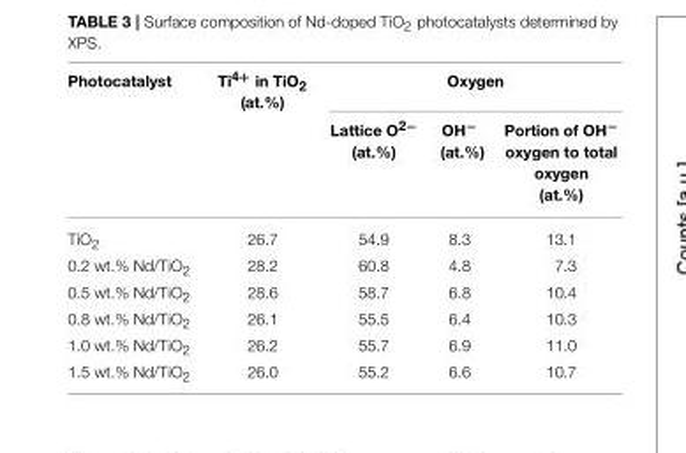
<table><thead><tr><td rowspan="2">Photocatalyst</td><td rowspan="2">Ti<sup>4+</sup> in TiO<sub>2</sub> (at.%)</td><td colspan="3">Oxygen</td></tr><tr><td>Lattice O<sup>2−</sup> (at.%)</td><td>OH<sup>−</sup> (at.%)</td><td>Portion of OH<sup>−</sup> oxygen to total oxygen (at.%)</td></tr></thead><tbody><tr><td>TiO<sub>2</sub></td><td>26.7</td><td>54.9</td><td>8.3</td><td>13.1</td></tr><tr><td>0.2 wt.% Nd/TiO<sub>2</sub></td><td>28.2</td><td>60.8</td><td>4.8</td><td>7.3</td></tr><tr><td>0.5 wt.% Nd/TiO<sub>2</sub></td><td>28.6</td><td>58.7</td><td>6.8</td><td>10.4</td></tr><tr><td>0.8 wt.% Nd/TiO<sub>2</sub></td><td>26.1</td><td>55.5</td><td>6.4</td><td>10.3</td></tr><tr><td>1.0 wt.% Nd/TiO<sub>2</sub></td><td>26.2</td><td>55.7</td><td>6.9</td><td>11.0</td></tr><tr><td>1.5 wt.% Nd/TiO<sub>2</sub></td><td>26.0</td><td>55.2</td><td>6.6</td><td>10.7</td></tr></tbody></table>